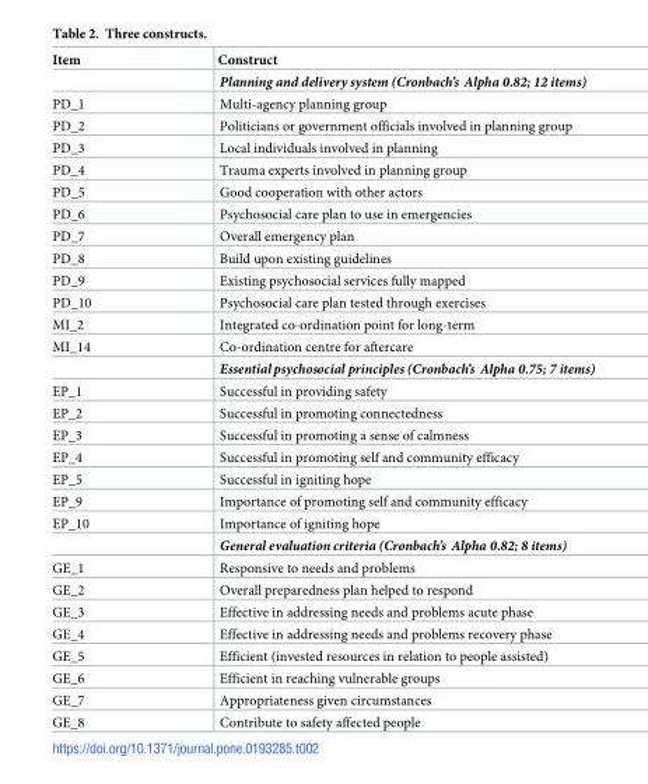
<table><thead><tr><td>Item</td><td>Construct</td></tr></thead><tbody><tr><td></td><td>Planning and delivery system (Cronbach’s Alpha 0.82; 12 items)</td></tr><tr><td>PD_1</td><td>Multi-agency planning group</td></tr><tr><td>PD_2</td><td>Politicians or government officials involved in planning group</td></tr><tr><td>PD_3</td><td>Local individuals involved in planning</td></tr><tr><td>PD_4</td><td>Trauma experts involved in planning group</td></tr><tr><td>PD_5</td><td>Good cooperation with other actors</td></tr><tr><td>PD_6</td><td>Psychosocial care plan to use in emergencies</td></tr><tr><td>PD_7</td><td>Overall emergency plan</td></tr><tr><td>PD_8</td><td>Build upon existing guidelines</td></tr><tr><td>PD_9</td><td>Existing psychosocial services fully mapped</td></tr><tr><td>PD_10</td><td>Psychosocial care plan tested through exercises</td></tr><tr><td>MI_2</td><td>Integrated co-ordination point for long-term</td></tr><tr><td rowspan="2">MI_14</td><td>Co-ordination centre for aftercare</td></tr><tr><td>Essential psychosocial principles (Cronbach’s Alpha 0.75; 7 items)</td></tr><tr><td>EP_1</td><td>Successful in providing safety</td></tr><tr><td>EP_2</td><td>Successful in promoting connectedness</td></tr><tr><td>EP_3</td><td>Successful in promoting a sense of calmness</td></tr><tr><td>EP_4</td><td>Successful in promoting self and community efficacy</td></tr><tr><td>EP_5</td><td>Successful in igniting hope</td></tr><tr><td>EP_9</td><td>Importance of promoting self and community efficacy</td></tr><tr><td rowspan="2">EP_10</td><td>Importance of igniting hope</td></tr><tr><td>General evaluation criteria (Cronbach’s Alpha 0.82; 8 items)</td></tr><tr><td>GE_1</td><td>Responsive to needs and problems</td></tr><tr><td>GE_2</td><td>Overall preparedness plan helped to respond</td></tr><tr><td>GE_3</td><td>Effective in addressing needs and problems acute phase</td></tr><tr><td>GE_4</td><td>Effective in addressing needs and problems recovery phase</td></tr><tr><td>GE_5</td><td>Efficient (invested resources in relation to people assisted)</td></tr><tr><td>GE_6</td><td>Efficient in reaching vulnerable groups</td></tr><tr><td>GE_7</td><td>Appropriateness given circumstances</td></tr><tr><td>GE_8</td><td>Contribute to safety affected people</td></tr></tbody></table>